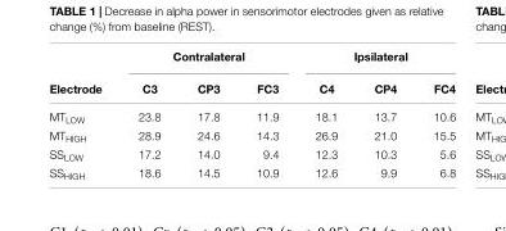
<table><thead><tr><td rowspan="2">Electrode</td><td colspan="3">Contralateral</td><td colspan="3">Ipsilateral</td></tr><tr><td>C3</td><td>CP3</td><td>FC3</td><td>C4</td><td>CP4</td><td>FC4</td></tr></thead><tbody><tr><td>MT<sub>LOW</sub></td><td>23.8</td><td>17.8</td><td>11.9</td><td>18.1</td><td>13.7</td><td>10.6</td></tr><tr><td>MT<sub>HIGH</sub></td><td>28.9</td><td>24.6</td><td>14.3</td><td>26.9</td><td>21.0</td><td>15.5</td></tr><tr><td>SS<sub>LOW</sub></td><td>17.2</td><td>14.0</td><td>9.4</td><td>12.3</td><td>10.3</td><td>5.6</td></tr><tr><td>SS<sub>HIGH</sub></td><td>18.6</td><td>14.5</td><td>10.9</td><td>12.6</td><td>9.9</td><td>6.8</td></tr></tbody></table>